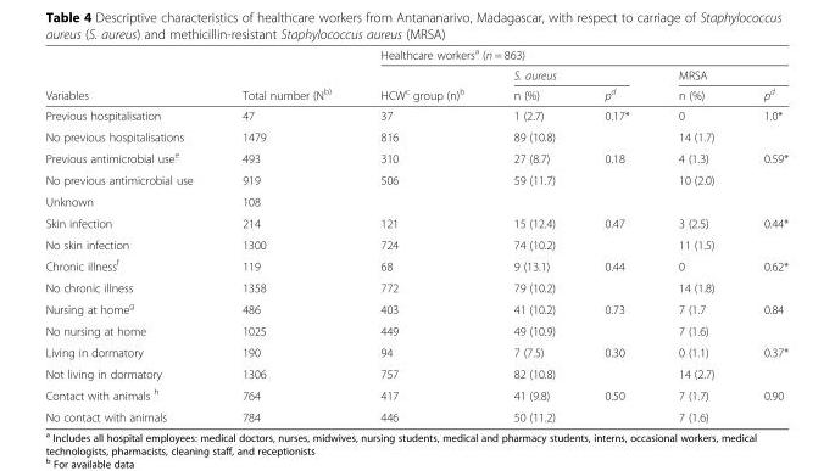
<table><thead><tr><td rowspan="3">Variables</td><td rowspan="3">Total number (N<sup>b)</sup></td><td colspan="5">Healthcare workers<sup>a</sup> (n = 863)</td></tr><tr><td rowspan="2">HCW<sup>c</sup> group (n)<sup>b</sup></td><td colspan="2">S. aureus</td><td colspan="2">MRSA</td></tr><tr><td>n (%)</td><td>p<sup>d</sup></td><td>n (%)</td><td>p<sup>d</sup></td></tr></thead><tbody><tr><td>Previous hospitalisation</td><td>47</td><td>37</td><td>1 (2.7)</td><td>0.17*</td><td>0</td><td>1.0*</td></tr><tr><td>No previous hospitalisations</td><td>1479</td><td>816</td><td>89 (10.8)</td><td></td><td>14 (1.7)</td><td></td></tr><tr><td>Previous antimicrobial use<sup>e</sup></td><td>493</td><td>310</td><td>27 (8.7)</td><td>0.18</td><td>4 (1.3)</td><td>0.59*</td></tr><tr><td>No previous antimicrobial use</td><td>919</td><td>506</td><td>59 (11.7)</td><td></td><td>10 (2.0)</td><td></td></tr><tr><td>Unknown</td><td>108</td><td></td><td></td><td></td><td></td><td></td></tr><tr><td>Skin infection</td><td>214</td><td>121</td><td>15 (12.4)</td><td>0.47</td><td>3 (2.5)</td><td>0.44*</td></tr><tr><td>No skin infection</td><td>1300</td><td>724</td><td>74 (10.2)</td><td></td><td>11 (1.5)</td><td></td></tr><tr><td>Chronic illness<sup>f</sup></td><td>119</td><td>68</td><td>9 (13.1)</td><td>0.44</td><td>0</td><td>0.62*</td></tr><tr><td>No chronic illness</td><td>1358</td><td>772</td><td>79 (10.2)</td><td></td><td>14 (1.8)</td><td></td></tr><tr><td>Nursing at home<sup>g</sup></td><td>486</td><td>403</td><td>41 (10.2)</td><td>0.73</td><td>7 (1.7</td><td>0.84</td></tr><tr><td>No nursing at home</td><td>1025</td><td>449</td><td>49 (10.9)</td><td></td><td>7 (1.6)</td><td></td></tr><tr><td>Living in dormatory</td><td>190</td><td>94</td><td>7 (7.5)</td><td>0.30</td><td>0 (1.1)</td><td>0.37*</td></tr><tr><td>Not living in dormatory</td><td>1306</td><td>757</td><td>82 (10.8)</td><td></td><td>14 (2.7)</td><td></td></tr><tr><td>Contact with animals <sup>h</sup></td><td>764</td><td>417</td><td>41 (9.8)</td><td>0.50</td><td>7 (1.7)</td><td>0.90</td></tr><tr><td>No contact with animals</td><td>784</td><td>446</td><td>50 (11.2)</td><td></td><td>7 (1.6)</td><td></td></tr></tbody></table>